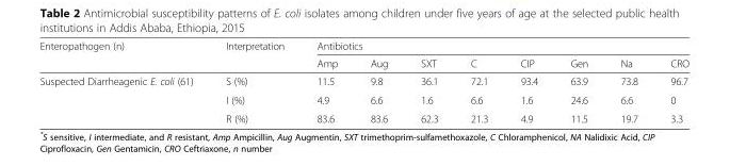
<table><thead><tr><td rowspan="2">Enteropathogen (n)</td><td rowspan="2">Interpretation</td><td colspan="8">Antibiotics</td></tr><tr><td>Amp</td><td>Aug</td><td>SXT</td><td>C</td><td>CIP</td><td>Gen</td><td>Na</td><td>CRO</td></tr></thead><tbody><tr><td rowspan="3">Suspected Diarrheagenic E. coli (61)</td><td>S (%)</td><td>11.5</td><td>9.8</td><td>36.1</td><td>72.1</td><td>93.4</td><td>63.9</td><td>73.8</td><td>96.7</td></tr><tr><td>I (%)</td><td>4.9</td><td>6.6</td><td>1.6</td><td>6.6</td><td>1.6</td><td>24.6</td><td>6.6</td><td>0</td></tr><tr><td>R (%)</td><td>83.6</td><td>83.6</td><td>62.3</td><td>21.3</td><td>4.9</td><td>11.5</td><td>19.7</td><td>3.3</td></tr></tbody></table>